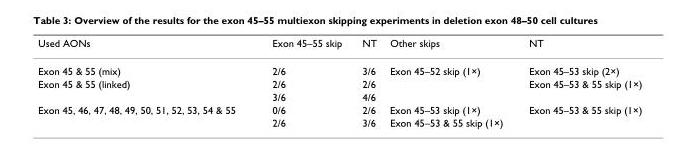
<table><thead><tr><td>Used AONs</td><td>Exon 45–55 skip</td><td>NT</td><td>Other skips</td><td>NT</td></tr></thead><tbody><tr><td>Exon 45 &amp; 55 (mix)</td><td>2/6</td><td>3/6</td><td>Exon 45–52 skip (1×)</td><td>Exon 45–53 skip (2×)</td></tr><tr><td rowspan="2">Exon 45 &amp; 55 (linked)</td><td>2/6</td><td>2/6</td><td></td><td>Exon 45–53 &amp; 55 skip (1×)</td></tr><tr><td>3/6</td><td>4/6</td><td></td><td></td></tr><tr><td rowspan="2">Exon 45, 46, 47, 48, 49, 50, 51, 52, 53, 54 &amp; 55</td><td>0/6</td><td>2/6</td><td>Exon 45–53 skip (1×)</td><td>Exon 45–53 &amp; 55 skip (1×)</td></tr><tr><td>2/6</td><td>3/6</td><td>Exon 45–53 &amp; 55 skip (1×)</td><td></td></tr></tbody></table>